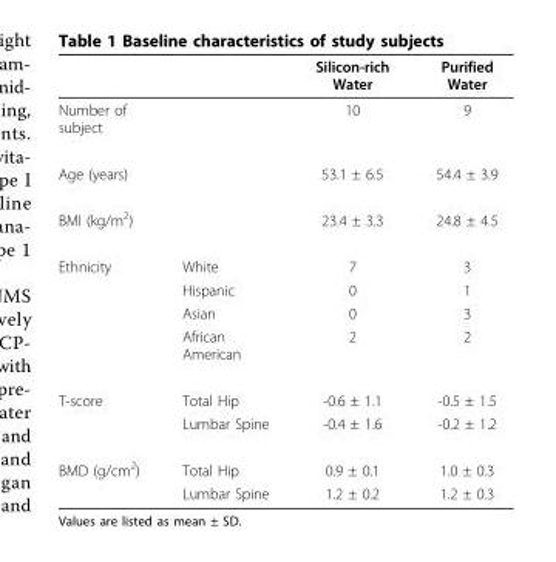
<table><thead><tr><td></td><td></td><td>Silicon-rich Water</td><td>Purified Water</td></tr></thead><tbody><tr><td>Number of subject</td><td></td><td>10</td><td>9</td></tr><tr><td>Age (years)</td><td></td><td>53.1 ± 6.5</td><td>54.4 ± 3.9</td></tr><tr><td>BMI (kg/m<sup>2</sup>)</td><td></td><td>23.4 ± 3.3</td><td>24.8 ± 4.5</td></tr><tr><td rowspan="4">Ethnicity</td><td>White</td><td>7</td><td>3</td></tr><tr><td>Hispanic</td><td>0</td><td>1</td></tr><tr><td>Asian</td><td>0</td><td>3</td></tr><tr><td>African American</td><td>2</td><td>2</td></tr><tr><td rowspan="2">T-score</td><td>Total Hip</td><td>-0.6 ± 1.1</td><td>-0.5 ± 1.5</td></tr><tr><td>Lumbar Spine</td><td>-0.4 ± 1.6</td><td>-0.2 ± 1.2</td></tr><tr><td rowspan="2">BMD (g/cm<sup>2</sup>)</td><td>Total Hip</td><td>0.9 ± 0.1</td><td>1.0 ± 0.3</td></tr><tr><td>Lumbar Spine</td><td>1.2 ± 0.2</td><td>1.2 ± 0.3</td></tr></tbody></table>